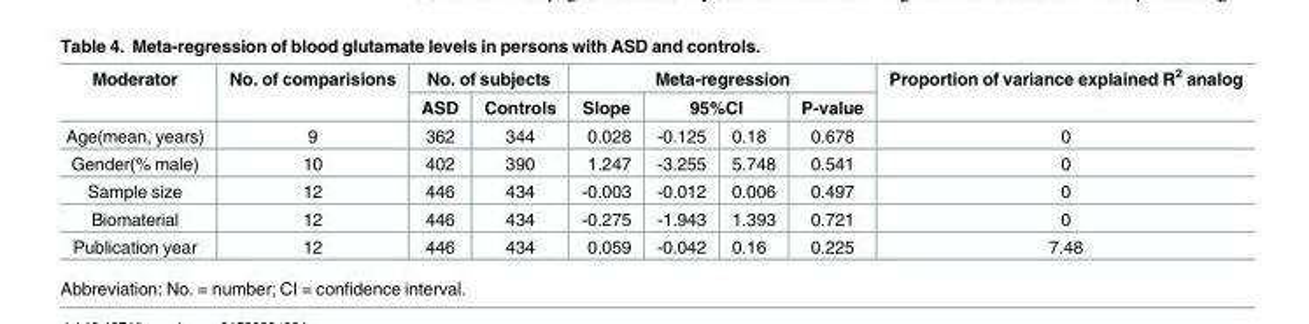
<table><thead><tr><td rowspan="3">Moderator Age(mean, years)</td><td rowspan="3">No. of comparisions 9</td><td colspan="2">No. of subjects</td><td colspan="4">Meta-regression</td><td rowspan="3">Proportion of variance explained R<sup>2</sup> analog 0</td></tr><tr><td rowspan="2">ASD 362</td><td rowspan="2">Controls 344</td><td rowspan="2">Slope 0.028</td><td colspan="2">95%CI</td><td rowspan="2">P-value 0.678</td></tr><tr><td>-0.125</td><td>0.18</td></tr></thead><tbody><tr><td>Gender(% male)</td><td>10</td><td>402</td><td>390</td><td>1.247</td><td>-3.255</td><td>5.748</td><td>0.541</td><td>0</td></tr><tr><td>Sample size</td><td>12</td><td>446</td><td>434</td><td>-0.003</td><td>-0.012</td><td>0.006</td><td>0.497</td><td>0</td></tr><tr><td>Biomaterial</td><td>12</td><td>446</td><td>434</td><td>-0.275</td><td>-1.943</td><td>1.393</td><td>0.721</td><td>0</td></tr><tr><td>Publication year</td><td>12</td><td>446</td><td>434</td><td>0.059</td><td>-0.042</td><td>0.16</td><td>0.225</td><td>7.48</td></tr></tbody></table>